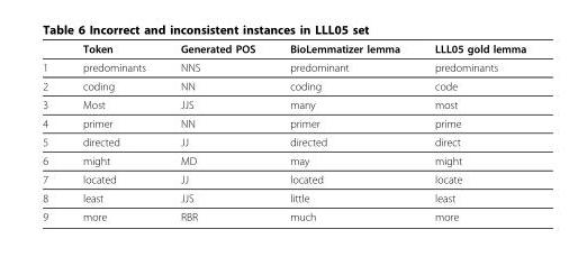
<table><thead><tr><td></td><td>Token</td><td>Generated POS</td><td>BioLemmatizer lemma</td><td>LLL05 gold lemma</td></tr></thead><tbody><tr><td>1</td><td>predominants</td><td>NNS</td><td>predominant</td><td>predominants</td></tr><tr><td>2</td><td>coding</td><td>NN</td><td>coding</td><td>code</td></tr><tr><td>3</td><td>Most</td><td>JJS</td><td>many</td><td>most</td></tr><tr><td>4</td><td>primer</td><td>NN</td><td>primer</td><td>prime</td></tr><tr><td>5</td><td>directed</td><td>JJ</td><td>directed</td><td>direct</td></tr><tr><td>6</td><td>might</td><td>MD</td><td>may</td><td>might</td></tr><tr><td>7</td><td>located</td><td>JJ</td><td>located</td><td>locate</td></tr><tr><td>8</td><td>least</td><td>JJS</td><td>little</td><td>least</td></tr><tr><td>9</td><td>more</td><td>RBR</td><td>much</td><td>more</td></tr></tbody></table>